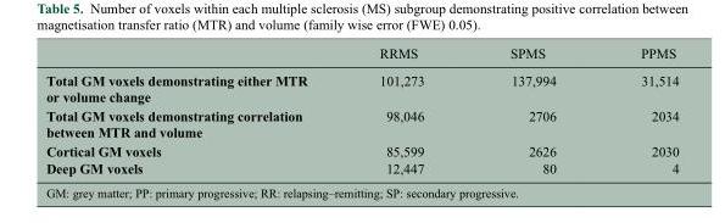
<table><thead><tr><td></td><td>RRMS</td><td>SPMS</td><td>PPMS</td></tr></thead><tbody><tr><td>Total GM voxels demonstrating either MTR or volume change</td><td>101,273</td><td>137,994</td><td>31,514</td></tr><tr><td>Total GM voxels demonstrating correlation between MTR and volume</td><td>98,046</td><td>2706</td><td>2034</td></tr><tr><td>Cortical GM voxels</td><td>85,599</td><td>2626</td><td>2030</td></tr><tr><td>Deep GM voxels</td><td>12,447</td><td>80</td><td>4</td></tr></tbody></table>